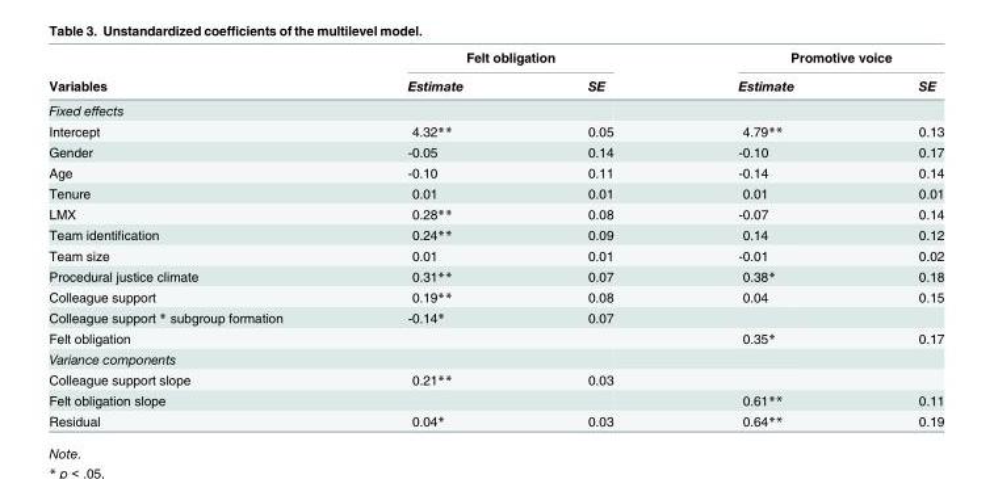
<table><thead><tr><td rowspan="2">Variables</td><td colspan="2">Felt obligation</td><td colspan="2">Promotive voice</td></tr><tr><td>Estimate</td><td>SE</td><td>Estimate</td><td>SE</td></tr></thead><tbody><tr><td colspan="5">Fixed effects</td></tr><tr><td>Intercept</td><td>4.32**</td><td>0.05</td><td>4.79**</td><td>0.13</td></tr><tr><td>Gender</td><td>-0.05</td><td>0.14</td><td>-0.10</td><td>0.17</td></tr><tr><td>Age</td><td>-0.10</td><td>0.11</td><td>-0.14</td><td>0.14</td></tr><tr><td>Tenure</td><td>0.01</td><td>0.01</td><td>0.01</td><td>0.01</td></tr><tr><td>LMX</td><td>0.28**</td><td>0.08</td><td>-0.07</td><td>0.14</td></tr><tr><td>Team identification</td><td>0.24**</td><td>0.09</td><td>0.14</td><td>0.12</td></tr><tr><td>Team size</td><td>0.01</td><td>0.01</td><td>-0.01</td><td>0.02</td></tr><tr><td>Procedural justice climate</td><td>0.31**</td><td>0.07</td><td>0.38*</td><td>0.18</td></tr><tr><td>Colleague support</td><td>0.19**</td><td>0.08</td><td>0.04</td><td>0.15</td></tr><tr><td>Colleague support * subgroup formation</td><td>-0.14*</td><td>0.07</td><td></td><td></td></tr><tr><td>Felt obligation</td><td></td><td></td><td>0.35*</td><td>0.17</td></tr><tr><td colspan="5">Variance components</td></tr><tr><td>Colleague support slope</td><td>0.21**</td><td>0.03</td><td></td><td></td></tr><tr><td>Felt obligation slope</td><td></td><td></td><td>0.61**</td><td>0.11</td></tr><tr><td>Residual</td><td>0.04*</td><td>0.03</td><td>0.64**</td><td>0.19</td></tr></tbody></table>